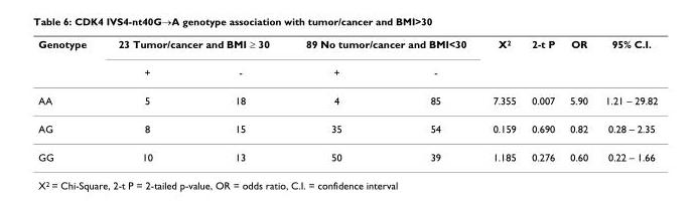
<table><thead><tr><td rowspan="2">Genotype</td><td colspan="2">23 Tumor/cancer and BMI ≥ 30</td><td colspan="2">89 No tumor/cancer and BMI&lt;30</td><td rowspan="2">X<sup>2</sup></td><td rowspan="2">2-t P</td><td rowspan="2">OR</td><td rowspan="2">95% C.I.</td></tr><tr><td>+</td><td>-</td><td>+</td><td>-</td></tr></thead><tbody><tr><td>AA</td><td>5</td><td>18</td><td>4</td><td>85</td><td>7.355</td><td>0.007</td><td>5.90</td><td>1.21 – 29.82</td></tr><tr><td>AG</td><td>8</td><td>15</td><td>35</td><td>54</td><td>0.159</td><td>0.690</td><td>0.82</td><td>0.28 – 2.35</td></tr><tr><td>GG</td><td>10</td><td>13</td><td>50</td><td>39</td><td>1.185</td><td>0.276</td><td>0.60</td><td>0.22 – 1.66</td></tr></tbody></table>